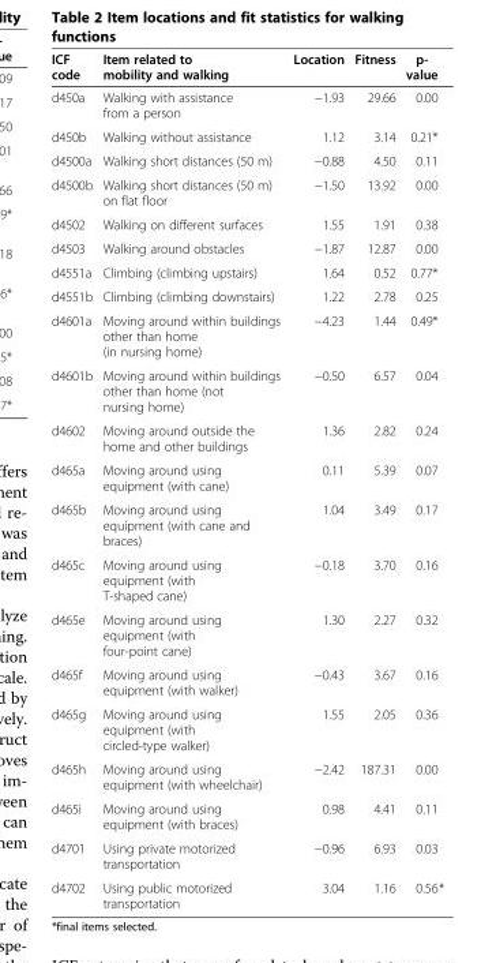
<table><thead><tr><td>ICF code</td><td>Item related to mobility and walking</td><td>Location</td><td>Fitness</td><td>p- value</td></tr></thead><tbody><tr><td>d450a</td><td>Walking with assistance from a person</td><td>−1.93</td><td>29.66</td><td>0.00</td></tr><tr><td>d450b</td><td>Walking without assistance</td><td>1.12</td><td>3.14</td><td>0.21*</td></tr><tr><td>d4500a</td><td>Walking short distances (50 m)</td><td>−0.88</td><td>4.50</td><td>0.11</td></tr><tr><td>d4500b</td><td>Walking short distances (50 m) on flat floor</td><td>−1.50</td><td>13.92</td><td>0.00</td></tr><tr><td>d4502</td><td>Walking on different surfaces</td><td>1.55</td><td>1.91</td><td>0.38</td></tr><tr><td>d4503</td><td>Walking around obstacles</td><td>−1.87</td><td>12.87</td><td>0.00</td></tr><tr><td>d4551a</td><td>Climbing (climbing upstairs)</td><td>1.64</td><td>0.52</td><td>0.77*</td></tr><tr><td>d4551b</td><td>Climbing (climbing downstairs)</td><td>1.22</td><td>2.78</td><td>0.25</td></tr><tr><td>d4601a</td><td>Moving around within buildings other than home (in nursing home)</td><td>−4.23</td><td>1.44</td><td>0.49*</td></tr><tr><td>d4601b</td><td>Moving around within buildings other than home (not nursing home)</td><td>−0.50</td><td>6.57</td><td>0.04</td></tr><tr><td>d4602</td><td>Moving around outside the home and other buildings</td><td>1.36</td><td>2.82</td><td>0.24</td></tr><tr><td>d465a</td><td>Moving around using equipment (with cane)</td><td>0.11</td><td>5.39</td><td>0.07</td></tr><tr><td>d465b</td><td>Moving around using equipment (with cane and braces)</td><td>1.04</td><td>3.49</td><td>0.17</td></tr><tr><td>d465c</td><td>Moving around using equipment (with T-shaped cane)</td><td>−0.18</td><td>3.70</td><td>0.16</td></tr><tr><td>d465e</td><td>Moving around using equipment (with four-point cane)</td><td>1.30</td><td>2.27</td><td>0.32</td></tr><tr><td>d465f</td><td>Moving around using equipment (with walker)</td><td>−0.43</td><td>3.67</td><td>0.16</td></tr><tr><td>d465g</td><td>Moving around using equipment (with circled-type walker)</td><td>1.55</td><td>2.05</td><td>0.36</td></tr><tr><td>d465h</td><td>Moving around using equipment (with wheelchair)</td><td>−2.42</td><td>187.31</td><td>0.00</td></tr><tr><td>d465i</td><td>Moving around using equipment (with braces)</td><td>0.98</td><td>4.41</td><td>0.11</td></tr><tr><td>d4701</td><td>Using private motorized transportation</td><td>−0.96</td><td>6.93</td><td>0.03</td></tr><tr><td>d4702</td><td>Using public motorized transportation</td><td>3.04</td><td>1.16</td><td>0.56*</td></tr></tbody></table>